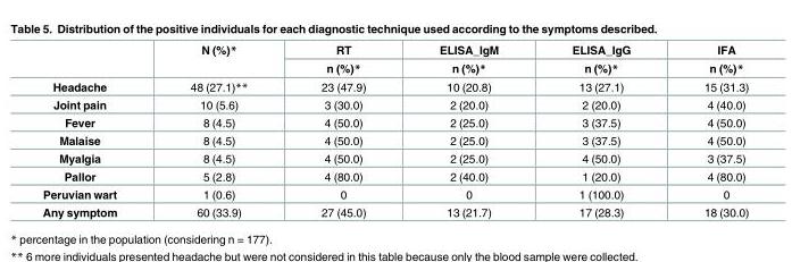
<table><thead><tr><td rowspan="2"></td><td rowspan="2">N (%)*</td><td rowspan="2">RT n (%)*</td><td rowspan="2">ELISA_IgM n (%)*</td><td rowspan="2">ELISA_IgG n (%)*</td><td rowspan="2">IFA n (%)*</td></tr><tr></tr></thead><tbody><tr><td>Headache</td><td>48 (27.1)**</td><td>23 (47.9)</td><td>10 (20.8)</td><td>13 (27.1)</td><td>15 (31.3)</td></tr><tr><td>Joint pain</td><td>10 (5.6)</td><td>3 (30.0)</td><td>2 (20.0)</td><td>2 (20.0)</td><td>4 (40.0)</td></tr><tr><td>Fever</td><td>8 (4.5)</td><td>4 (50.0)</td><td>2 (25.0)</td><td>3 (37.5)</td><td>4 (50.0)</td></tr><tr><td>Malaise</td><td>8 (4.5)</td><td>4 (50.0)</td><td>2 (25.0)</td><td>3 (37.5)</td><td>4 (50.0)</td></tr><tr><td>Myalgia</td><td>8 (4.5)</td><td>4 (50.0)</td><td>2 (25.0)</td><td>4 (50.0)</td><td>3 (37.5)</td></tr><tr><td>Pallor</td><td>5 (2.8)</td><td>4 (80.0)</td><td>2 (40.0)</td><td>1 (20.0)</td><td>4 (80.0)</td></tr><tr><td>Peruvian wart</td><td>1 (0.6)</td><td>0</td><td>0</td><td>1 (100.0)</td><td>0</td></tr><tr><td>Any symptom</td><td>60 (33.9)</td><td>27 (45.0)</td><td>13 (21.7)</td><td>17 (28.3)</td><td>18 (30.0)</td></tr></tbody></table>